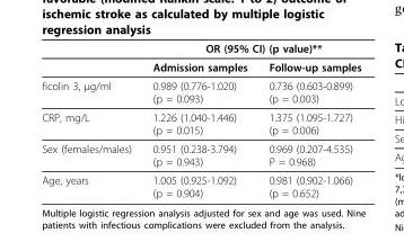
<table><thead><tr><td rowspan="2"></td><td colspan="2">OR (95% CI) (p value)**</td></tr><tr><td>Admission samples</td><td>Follow-up samples</td></tr></thead><tbody><tr><td>ficolin 3, μg/ml</td><td>0.989 (0.776-1.020) (p = 0.093)</td><td>0.736 (0.603-0.899) (p = 0.003)</td></tr><tr><td>CRP, mg/L</td><td>1.226 (1.040-1.446) (p = 0.015)</td><td>1.375 (1.095-1.727) (p = 0.006)</td></tr><tr><td>Sex (females/males)</td><td>0.951 (0.238-3.794) (p = 0.943)</td><td>0.969 (0.207-4.535) P = 0.968)</td></tr><tr><td>Age, years</td><td>1.005 (0.925-1.092) (p = 0.904)</td><td>0.981 (0.902-1.066) (p = 0.652)</td></tr></tbody></table>